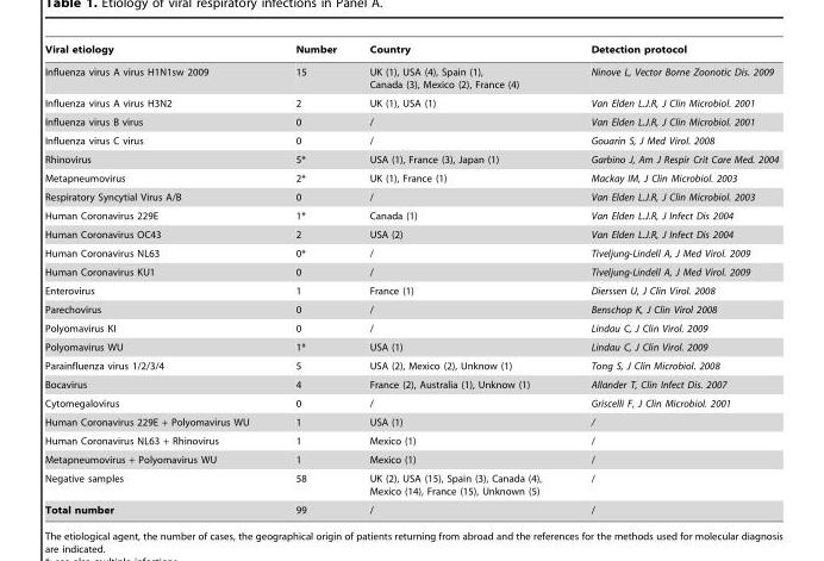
<table><thead><tr><td>Viral etiology</td><td>Number</td><td>Country</td><td>Detection protocol</td></tr></thead><tbody><tr><td>Influenza virus A virus H1N1sw 2009</td><td>15</td><td>UK (1), USA (4), Spain (1), Canada (3), Mexico (2), France (4)</td><td>Ninove L, Vector Borne Zoonotic Dis. 2009</td></tr><tr><td>Influenza virus A virus H3N2</td><td>2</td><td>UK (1), USA (1)</td><td>Van Elden L.J.R, J Clin Microbiol. 2001</td></tr><tr><td>Influenza virus B virus</td><td>0</td><td>/</td><td>Van Elden L.J.R, J Clin Microbiol. 2001</td></tr><tr><td>Influenza virus C virus</td><td>0</td><td>/</td><td>Gouarin S, J Med Virol. 2008</td></tr><tr><td>Rhinovirus</td><td>5*</td><td>USA (1), France (3), Japan (1)</td><td>Garbino J, Am J Respir Crit Care Med. 2004</td></tr><tr><td>Metapneumovirus</td><td>2*</td><td>UK (1), France (1)</td><td>Mackay IM, J Clin Microbiol. 2003</td></tr><tr><td>Respiratory Syncytial Virus A/B</td><td>0</td><td>/</td><td>Van Elden L.J.R, J Clin Microbiol. 2003</td></tr><tr><td>Human Coronavirus 229E</td><td>1*</td><td>Canada (1)</td><td>Van Elden L.J.R, J Infect Dis 2004</td></tr><tr><td>Human Coronavirus OC43</td><td>2</td><td>USA (2)</td><td>Van Elden L.J.R, J Infect Dis 2004</td></tr><tr><td>Human Coronavirus NL63</td><td>0*</td><td>/</td><td>Tiveljung-Lindell A, J Med Virol. 2009</td></tr><tr><td>Human Coronavirus KU1</td><td>0</td><td>/</td><td>Tiveljung-Lindell A, J Med Virol. 2009</td></tr><tr><td>Enterovirus</td><td>1</td><td>France (1)</td><td>Dierssen U, J Clin Virol. 2008</td></tr><tr><td>Parechovirus</td><td>0</td><td>/</td><td>Benschop K, J Clin Virol 2008</td></tr><tr><td>Polyomavirus KI</td><td>0</td><td>/</td><td>Lindau C, J Clin Virol. 2009</td></tr><tr><td>Polyomavirus WU</td><td>1*</td><td>USA (1)</td><td>Lindau C, J Clin Virol. 2009</td></tr><tr><td>Parainfluenza virus 1/2/3/4</td><td>5</td><td>USA (2), Mexico (2), Unknow (1)</td><td>Tong S, J Clin Microbiol. 2008</td></tr><tr><td>Bocavirus</td><td>4</td><td>France (2), Australia (1), Unknow (1)</td><td>Allander T, Clin Infect Dis. 2007</td></tr><tr><td>Cytomegalovirus</td><td>0</td><td>/</td><td>Griscelli F, J Clin Microbiol. 2001</td></tr><tr><td>Human Coronavirus 229E + Polyomavirus WU</td><td>1</td><td>USA (1)</td><td>/</td></tr><tr><td>Human Coronavirus NL63 + Rhinovirus</td><td>1</td><td>Mexico (1)</td><td>/</td></tr><tr><td>Metapneumovirus + Polyomavirus WU</td><td>1</td><td>Mexico (1)</td><td>/</td></tr><tr><td>Negative samples</td><td>58</td><td>UK (2), USA (15), Spain (3), Canada (4), Mexico (14), France (15), Unknown (5)</td><td>/</td></tr><tr><td>Total number</td><td>99</td><td>/</td><td>/</td></tr></tbody></table>